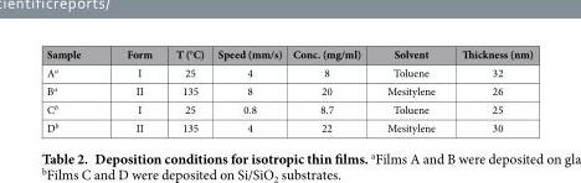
<table><thead><tr><td>Sample</td><td>Form</td><td>T (°C)</td><td>Speed (mm/s)</td><td>Conc. (mg/ml)</td><td>Solvent</td><td>Thickness (nm)</td></tr></thead><tbody><tr><td>A<sup>a</sup></td><td>I</td><td>25</td><td>4</td><td>8</td><td>Toluene</td><td>32</td></tr><tr><td>B<sup>a</sup></td><td>II</td><td>135</td><td>8</td><td>20</td><td>Mesitylene</td><td>26</td></tr><tr><td>C<sup>b</sup></td><td>I</td><td>25</td><td>0.8</td><td>8.7</td><td>Toluene</td><td>25</td></tr><tr><td>D<sup>b</sup></td><td>II</td><td>135</td><td>4</td><td>22</td><td>Mesitylene</td><td>30</td></tr></tbody></table>